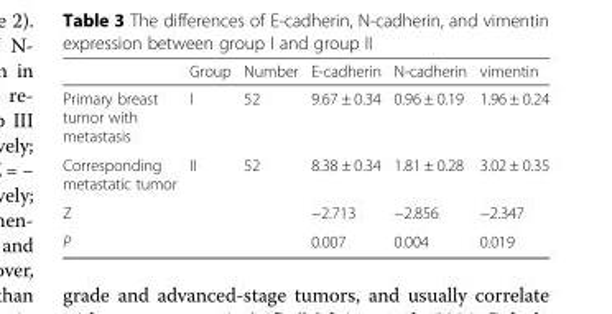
<table><thead><tr><td></td><td>Group</td><td>Number</td><td>E-cadherin</td><td>N-cadherin</td><td>vimentin</td></tr></thead><tbody><tr><td>Primary breast tumor with metastasis</td><td>I</td><td>52</td><td>9.67 ± 0.34</td><td>0.96 ± 0.19</td><td>1.96 ± 0.24</td></tr><tr><td>Corresponding metastatic tumor</td><td>II</td><td>52</td><td>8.38 ± 0.34</td><td>1.81 ± 0.28</td><td>3.02 ± 0.35</td></tr><tr><td>Z</td><td></td><td></td><td>−2.713</td><td>−2.856</td><td>−2.347</td></tr><tr><td>P</td><td></td><td></td><td>0.007</td><td>0.004</td><td>0.019</td></tr></tbody></table>